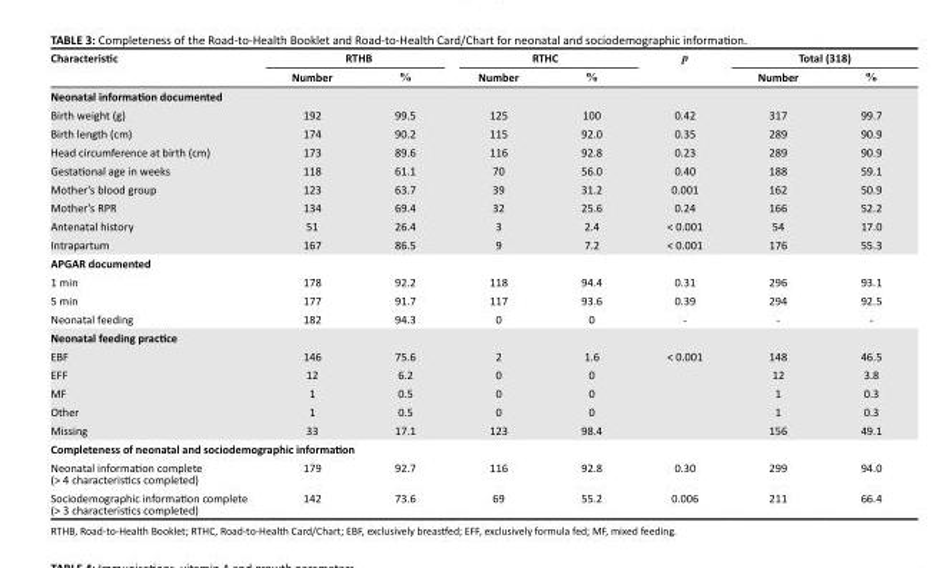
<table><thead><tr><td rowspan="2">Characteristic</td><td colspan="2">RTHB</td><td colspan="2">RTHC</td><td rowspan="2">p</td><td colspan="2">Total (318)</td></tr><tr><td>Number</td><td>%</td><td>Number</td><td>%</td><td>Number</td><td>%</td></tr></thead><tbody><tr><td colspan="8">Neonatal information documented</td></tr><tr><td>Birth weight (g)</td><td>192</td><td>99.5</td><td>125</td><td>100</td><td>0.42</td><td>317</td><td>99.7</td></tr><tr><td>Birth length (cm)</td><td>174</td><td>90.2</td><td>115</td><td>92.0</td><td>0.35</td><td>289</td><td>90.9</td></tr><tr><td>Head circumference at birth (cm)</td><td>173</td><td>89.6</td><td>116</td><td>92.8</td><td>0.23</td><td>289</td><td>90.9</td></tr><tr><td>Gestational age in weeks</td><td>118</td><td>61.1</td><td>70</td><td>56.0</td><td>0.40</td><td>188</td><td>59.1</td></tr><tr><td>Mother’s blood group</td><td>123</td><td>63.7</td><td>39</td><td>31.2</td><td>0.001</td><td>162</td><td>50.9</td></tr><tr><td>Mother’s RPR</td><td>134</td><td>69.4</td><td>32</td><td>25.6</td><td>0.24</td><td>166</td><td>52.2</td></tr><tr><td>Antenatal history</td><td>51</td><td>26.4</td><td>3</td><td>2.4</td><td>&lt; 0.001</td><td>54</td><td>17.0</td></tr><tr><td>Intrapartum</td><td>167</td><td>86.5</td><td>9</td><td>7.2</td><td>&lt; 0.001</td><td>176</td><td>55.3</td></tr><tr><td colspan="8">APGAR documented</td></tr><tr><td>1 min</td><td>178</td><td>92.2</td><td>118</td><td>94.4</td><td>0.31</td><td>296</td><td>93.1</td></tr><tr><td>5 min</td><td>177</td><td>91.7</td><td>117</td><td>93.6</td><td>0.39</td><td>294</td><td>92.5</td></tr><tr><td>Neonatal feeding</td><td>182</td><td>94.3</td><td>0</td><td>0</td><td>-</td><td>-</td><td>-</td></tr><tr><td colspan="8">Neonatal feeding practice</td></tr><tr><td>EBF</td><td>146</td><td>75.6</td><td>2</td><td>1.6</td><td rowspan="5">&lt; 0.001</td><td>148</td><td>46.5</td></tr><tr><td>EFF</td><td>12</td><td>6.2</td><td>0</td><td>0</td><td>12</td><td>3.8</td></tr><tr><td>MF</td><td>1</td><td>0.5</td><td>0</td><td>0</td><td>1</td><td>0.3</td></tr><tr><td>Other</td><td>1</td><td>0.5</td><td>0</td><td>0</td><td>1</td><td>0.3</td></tr><tr><td>Missing</td><td>33</td><td>17.1</td><td>123</td><td>98.4</td><td>156</td><td>49.1</td></tr><tr><td colspan="8">Completeness of neonatal and sociodemographic information</td></tr><tr><td>Neonatal information complete (&gt; 4 characteristics completed)</td><td>179</td><td>92.7</td><td>116</td><td>92.8</td><td>0.30</td><td>299</td><td>94.0</td></tr><tr><td>Sociodemographic information complete (&gt; 3 characteristics completed)</td><td>142</td><td>73.6</td><td>69</td><td>55.2</td><td>0.006</td><td>211</td><td>66.4</td></tr></tbody></table>